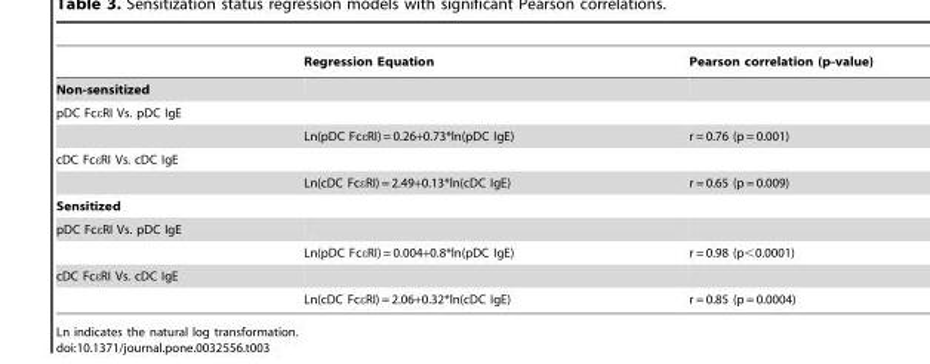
<table><thead><tr><td></td><td>Regression Equation</td><td>Pearson correlation (p-value)</td></tr></thead><tbody><tr><td colspan="3">Non-sensitized</td></tr><tr><td colspan="3">pDC FcεRI Vs. pDC IgE</td></tr><tr><td></td><td>Ln(pDC FcεRI) = 0.26+0.73*ln(pDC IgE)</td><td>r = 0.76 (p = 0.001)</td></tr><tr><td colspan="3">cDC FcεRI Vs. cDC IgE</td></tr><tr><td></td><td>Ln(cDC FcεRI) = 2.49+0.13*ln(cDC IgE)</td><td>r = 0.65 (p = 0.009)</td></tr><tr><td colspan="3">Sensitized</td></tr><tr><td colspan="3">pDC FcεRI Vs. pDC IgE</td></tr><tr><td></td><td>Ln(pDC FcεRI) = 0.004+0.8*ln(pDC IgE)</td><td>r = 0.98 (p&lt;0.0001)</td></tr><tr><td colspan="3">cDC FcεRI Vs. cDC IgE</td></tr><tr><td></td><td>Ln(cDC FcεRI) = 2.06+0.32*ln(cDC IgE)</td><td>r = 0.85 (p = 0.0004)</td></tr></tbody></table>